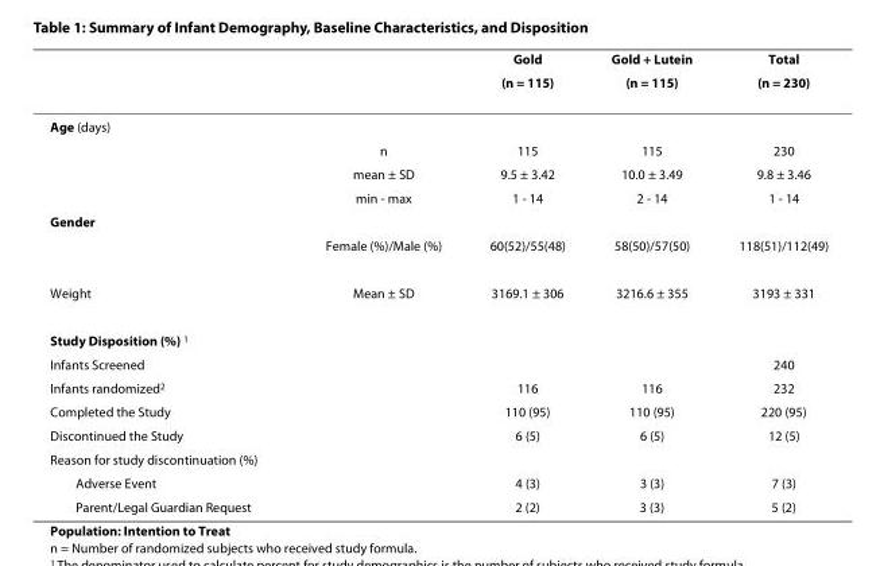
<table><thead><tr><td rowspan="2"></td><td rowspan="2"></td><td rowspan="2">Gold (n = 115)</td><td rowspan="2">Gold + Lutein (n = 115)</td><td rowspan="2">Total (n = 230)</td></tr><tr></tr></thead><tbody><tr><td colspan="5">Age (days)</td></tr><tr><td></td><td>n</td><td>115</td><td>115</td><td>230</td></tr><tr><td></td><td>mean ± SD</td><td>9.5 ± 3.42</td><td>10.0 ± 3.49</td><td>9.8 ± 3.46</td></tr><tr><td></td><td>min - max</td><td>1 - 14</td><td>2 - 14</td><td>1 - 14</td></tr><tr><td colspan="5">Gender</td></tr><tr><td></td><td>Female (%)/Male (%)</td><td>60(52)/55(48)</td><td>58(50)/57(50)</td><td>118(51)/112(49)</td></tr><tr><td>Weight</td><td>Mean ± SD</td><td>3169.1 ± 306</td><td>3216.6 ± 355</td><td>3193 ± 331</td></tr><tr><td colspan="5">Study Disposition (%) <sup>1</sup></td></tr><tr><td>Infants Screened</td><td></td><td></td><td></td><td>240</td></tr><tr><td>Infants randomized<sup>2</sup></td><td></td><td>116</td><td>116</td><td>232</td></tr><tr><td>Completed the Study</td><td></td><td>110 (95)</td><td>110 (95)</td><td>220 (95)</td></tr><tr><td>Discontinued the Study</td><td></td><td>6 (5)</td><td>6 (5)</td><td>12 (5)</td></tr><tr><td colspan="5">Reason for study discontinuation (%)</td></tr><tr><td>Adverse Event</td><td></td><td>4 (3)</td><td>3 (3)</td><td>7 (3)</td></tr><tr><td>Parent/Legal Guardian Request</td><td></td><td>2 (2)</td><td>3 (3)</td><td>5 (2)</td></tr></tbody></table>